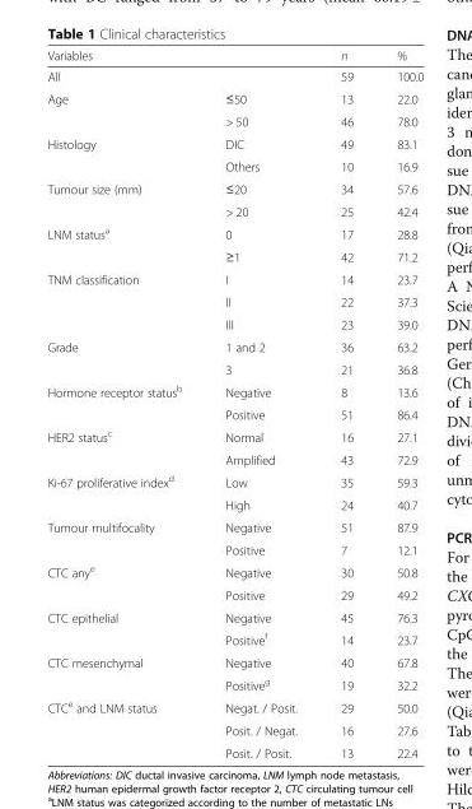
<table><thead><tr><td colspan="2">Variables</td><td rowspan="2">n 59</td><td rowspan="2">% 100.0</td></tr><tr><td>All</td><td></td></tr></thead><tbody><tr><td rowspan="2">Age</td><td>≤50</td><td>13</td><td>22.0</td></tr><tr><td>&gt; 50</td><td>46</td><td>78.0</td></tr><tr><td rowspan="2">Histology</td><td>DIC</td><td>49</td><td>83.1</td></tr><tr><td>Others</td><td>10</td><td>16.9</td></tr><tr><td rowspan="2">Tumour size (mm)</td><td>≤20</td><td>34</td><td>57.6</td></tr><tr><td>&gt; 20</td><td>25</td><td>42.4</td></tr><tr><td rowspan="2">LNM status<sup>a</sup></td><td>0</td><td>17</td><td>28.8</td></tr><tr><td>≥1</td><td>42</td><td>71.2</td></tr><tr><td rowspan="3">TNM classification</td><td>I</td><td>14</td><td>23.7</td></tr><tr><td>II</td><td>22</td><td>37.3</td></tr><tr><td>III</td><td>23</td><td>39.0</td></tr><tr><td rowspan="2">Grade</td><td>1 and 2</td><td>36</td><td>63.2</td></tr><tr><td>3</td><td>21</td><td>36.8</td></tr><tr><td rowspan="2">Hormone receptor status<sup>b</sup></td><td>Negative</td><td>8</td><td>13.6</td></tr><tr><td>Positive</td><td>51</td><td>86.4</td></tr><tr><td rowspan="2">HER2 status<sup>c</sup></td><td>Normal</td><td>16</td><td>27.1</td></tr><tr><td>Amplified</td><td>43</td><td>72.9</td></tr><tr><td rowspan="2">Ki-67 proliferative index<sup>d</sup></td><td>Low</td><td>35</td><td>59.3</td></tr><tr><td>High</td><td>24</td><td>40.7</td></tr><tr><td rowspan="2">Tumour multifocality</td><td>Negative</td><td>51</td><td>87.9</td></tr><tr><td>Positive</td><td>7</td><td>12.1</td></tr><tr><td rowspan="2">CTC any<sup>e</sup></td><td>Negative</td><td>30</td><td>50.8</td></tr><tr><td>Positive</td><td>29</td><td>49.2</td></tr><tr><td rowspan="2">CTC epithelial</td><td>Negative</td><td>45</td><td>76.3</td></tr><tr><td>Positive<sup>f</sup></td><td>14</td><td>23.7</td></tr><tr><td rowspan="2">CTC mesenchymal</td><td>Negative</td><td>40</td><td>67.8</td></tr><tr><td>Positive<sup>g</sup></td><td>19</td><td>32.2</td></tr><tr><td rowspan="3">CTC<sup>e</sup> and LNM status</td><td>Negat. / Posit.</td><td>29</td><td>50.0</td></tr><tr><td>Posit. / Negat.</td><td>16</td><td>27.6</td></tr><tr><td>Posit. / Posit.</td><td>13</td><td>22.4</td></tr></tbody></table>